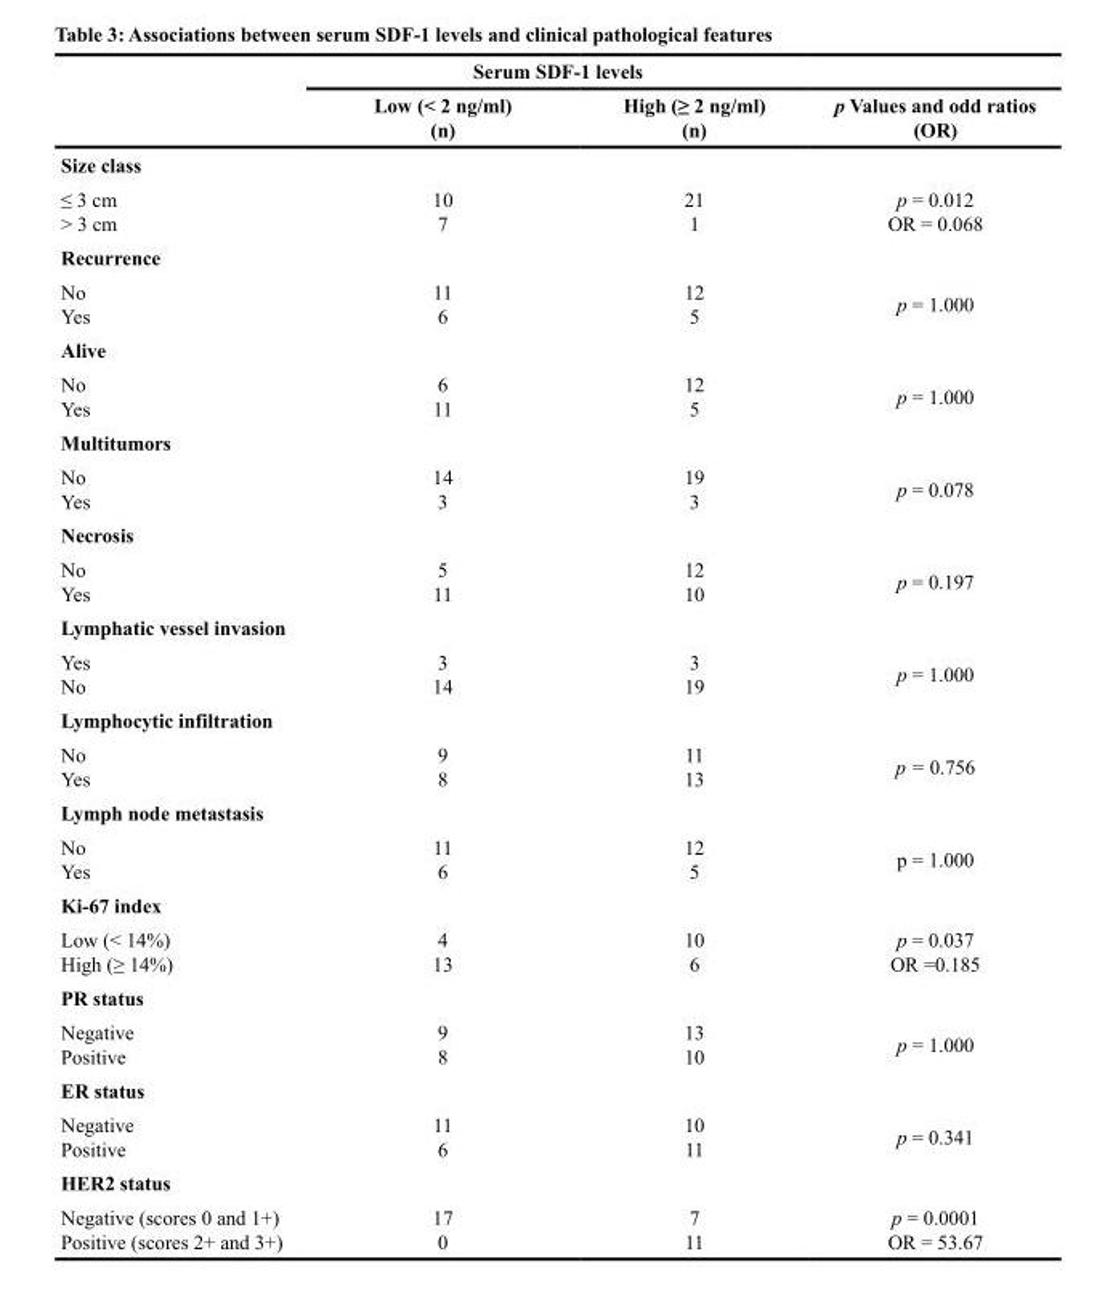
<table><thead><tr><td rowspan="2"></td><td colspan="2">Serum SDF-1 levels</td><td rowspan="2">p Values and odd ratios (OR)</td></tr><tr><td>Low (&lt; 2 ng/ml) (n)</td><td>High (≥ 2 ng/ml) (n)</td></tr></thead><tbody><tr><td colspan="4">Size class</td></tr><tr><td>≤ 3 cm &gt; 3 cm</td><td>10 7</td><td>21 1</td><td>p = 0.012 OR = 0.068</td></tr><tr><td colspan="4">Recurrence</td></tr><tr><td>No Yes</td><td>11 6</td><td>12 5</td><td>p = 1.000</td></tr><tr><td colspan="4">Alive</td></tr><tr><td>No Yes</td><td>6 11</td><td>12 5</td><td>p = 1.000</td></tr><tr><td colspan="4">Multitumors</td></tr><tr><td>No Yes</td><td>14 3</td><td>19 3</td><td>p = 0.078</td></tr><tr><td colspan="4">Necrosis</td></tr><tr><td>No Yes</td><td>5 11</td><td>12 10</td><td>p = 0.197</td></tr><tr><td colspan="4">Lymphatic vessel invasion</td></tr><tr><td>Yes No</td><td>3 14</td><td>3 19</td><td>p = 1.000</td></tr><tr><td colspan="4">Lymphocytic infiltration</td></tr><tr><td>No Yes</td><td>9 8</td><td>11 13</td><td>p = 0.756</td></tr><tr><td colspan="4">Lymph node metastasis</td></tr><tr><td>No Yes</td><td>11 6</td><td>12 5</td><td>p = 1.000</td></tr><tr><td colspan="4">Ki-67 index</td></tr><tr><td>Low (&lt; 14%) High (≥ 14%)</td><td>4 13</td><td>10 6</td><td>p = 0.037 OR =0.185</td></tr><tr><td colspan="4">PR status</td></tr><tr><td>Negative Positive</td><td>9 8</td><td>13 10</td><td>p = 1.000</td></tr><tr><td colspan="4">ER status</td></tr><tr><td>Negative Positive</td><td>11 6</td><td>10 11</td><td>p = 0.341</td></tr><tr><td colspan="4">HER2 status</td></tr><tr><td>Negative (scores 0 and 1+) Positive (scores 2+ and 3+)</td><td>17 0</td><td>7 11</td><td>p = 0.0001 OR = 53.67</td></tr></tbody></table>